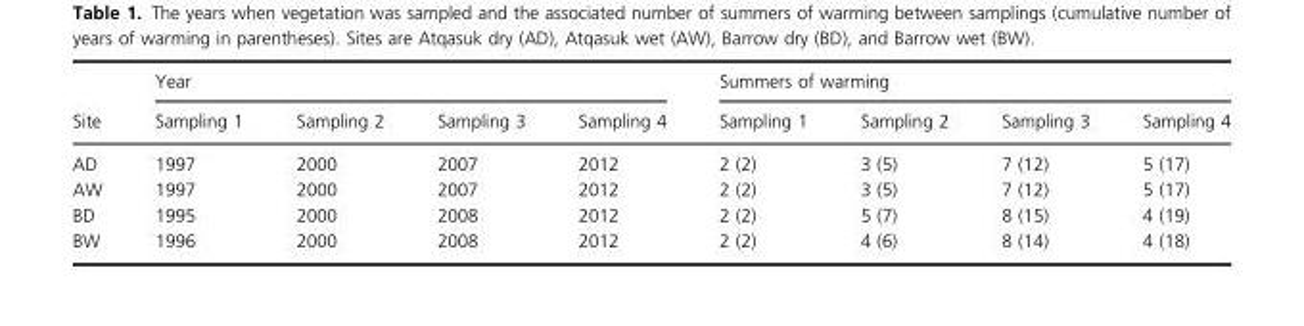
<table><thead><tr><td rowspan="2">Site</td><td colspan="4">Year</td><td colspan="4">Summers of warming</td></tr><tr><td>Sampling 1</td><td>Sampling 2</td><td>Sampling 3</td><td>Sampling 4</td><td>Sampling 1</td><td>Sampling 2</td><td>Sampling 3</td><td>Sampling 4</td></tr></thead><tbody><tr><td>AD</td><td>1997</td><td>2000</td><td>2007</td><td>2012</td><td>2 (2)</td><td>3 (5)</td><td>7 (12)</td><td>5 (17)</td></tr><tr><td>AW</td><td>1997</td><td>2000</td><td>2007</td><td>2012</td><td>2 (2)</td><td>3 (5)</td><td>7 (12)</td><td>5 (17)</td></tr><tr><td>BD</td><td>1995</td><td>2000</td><td>2008</td><td>2012</td><td>2 (2)</td><td>5 (7)</td><td>8 (15)</td><td>4 (19)</td></tr><tr><td>BW</td><td>1996</td><td>2000</td><td>2008</td><td>2012</td><td>2 (2)</td><td>4 (6)</td><td>8 (14)</td><td>4 (18)</td></tr></tbody></table>